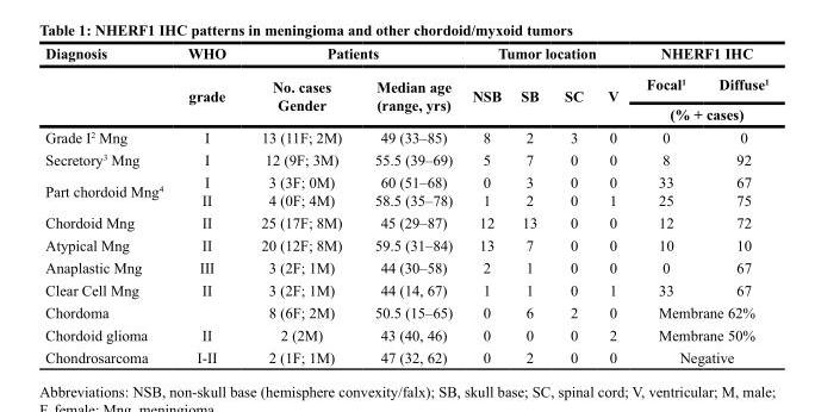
<table><thead><tr><td rowspan="3">Diagnosis</td><td rowspan="3">WHO grade</td><td colspan="2">Patients</td><td colspan="4">Tumor location</td><td colspan="2">NHERF1 IHC</td></tr><tr><td rowspan="2">No. cases Gender</td><td rowspan="2">Median age (range, yrs)</td><td rowspan="2">NSB</td><td rowspan="2">SB</td><td rowspan="2">SC</td><td rowspan="2">V</td><td>Focal<sup>1</sup></td><td>Diffuse<sup>1</sup></td></tr><tr><td colspan="2">(% + cases)</td></tr></thead><tbody><tr><td>Grade I<sup>2</sup> Mng</td><td>I</td><td>13 (11F; 2M)</td><td>49 (33–85)</td><td>8</td><td>2</td><td>3</td><td>0</td><td>0</td><td>0</td></tr><tr><td>Secretory<sup>3</sup> Mng</td><td>I</td><td>12 (9F; 3M)</td><td>55.5 (39–69)</td><td>5</td><td>7</td><td>0</td><td>0</td><td>8</td><td>92</td></tr><tr><td>Part chordoid Mng<sup>4</sup></td><td>I II</td><td>3 (3F; 0M) 4 (0F; 4M)</td><td>60 (51–68) 58.5 (35–78)</td><td>0 1</td><td>3 2</td><td>0 0</td><td>0 1</td><td>33 25</td><td>67 75</td></tr><tr><td>Chordoid Mng</td><td>II</td><td>25 (17F; 8M)</td><td>45 (29–87)</td><td>12</td><td>13</td><td>0</td><td>0</td><td>12</td><td>72</td></tr><tr><td>Atypical Mng</td><td>II</td><td>20 (12F; 8M)</td><td>59.5 (31–84)</td><td>13</td><td>7</td><td>0</td><td>0</td><td>10</td><td>10</td></tr><tr><td>Anaplastic Mng</td><td>III</td><td>3 (2F; 1M)</td><td>44 (30–58)</td><td>2</td><td>1</td><td>0</td><td>0</td><td>0</td><td>67</td></tr><tr><td>Clear Cell Mng</td><td>II</td><td>3 (2F; 1M)</td><td>44 (14, 67)</td><td>1</td><td>1</td><td>0</td><td>1</td><td>33</td><td>67</td></tr><tr><td>Chordoma</td><td></td><td>8 (6F; 2M)</td><td>50.5 (15–65)</td><td>0</td><td>6</td><td>2</td><td>0</td><td colspan="2">Membrane 62%</td></tr><tr><td>Chordoid glioma</td><td>II</td><td>2 (2M)</td><td>43 (40, 46)</td><td>0</td><td>0</td><td>0</td><td>2</td><td colspan="2">Membrane 50%</td></tr><tr><td>Chondrosarcoma</td><td>I-II</td><td>2 (1F; 1M)</td><td>47 (32, 62)</td><td>0</td><td>2</td><td>0</td><td>0</td><td colspan="2">Negative</td></tr></tbody></table>